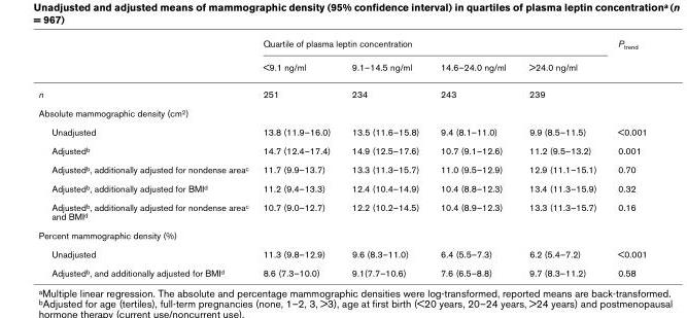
<table><thead><tr><td rowspan="2"></td><td colspan="4">Quartile of plasma leptin concentration</td><td rowspan="2">Ptrend</td></tr><tr><td>&lt;9.1 ng/ml</td><td>9.1–14.5 ng/ml</td><td>14.6–24.0 ng/ml</td><td>&gt;24.0 ng/ml</td></tr></thead><tbody><tr><td>n</td><td>251</td><td>234</td><td>243</td><td>239</td><td></td></tr><tr><td colspan="6">Absolute mammographic density (cm2)</td></tr><tr><td>Unadjusted</td><td>13.8 (11.9–16.0)</td><td>13.5 (11.6–15.8)</td><td>9.4 (8.1–11.0)</td><td>9.9 (8.5–11.5)</td><td>&lt;0.001</td></tr><tr><td>Adjustedb</td><td>14.7 (12.4–17.4)</td><td>14.9 (12.5–17.6)</td><td>10.7 (9.1–12.6)</td><td>11.2 (9.5–13.2)</td><td>0.001</td></tr><tr><td>Adjustedb, additionally adjusted for nondense areac</td><td>11.7 (9.9–13.7)</td><td>13.3 (11.3–15.7)</td><td>11.0 (9.5–12.9)</td><td>12.9 (11.1–15.1)</td><td>0.70</td></tr><tr><td>Adjustedb, additionally adjusted for BMId</td><td>11.2 (9.4–13.3)</td><td>12.4 (10.4–14.9)</td><td>10.4 (8.8–12.3)</td><td>13.4 (11.3–15.9)</td><td>0.32</td></tr><tr><td>Adjustedb, additionally adjusted for nondense areac and BMId</td><td>10.7 (9.0–12.7)</td><td>12.2 (10.2–14.5)</td><td>10.4 (8.9–12.3)</td><td>13.3 (11.3–15.7)</td><td>0.16</td></tr><tr><td colspan="6">Percent mammographic density (%)</td></tr><tr><td>Unadjusted</td><td>11.3 (9.8–12.9)</td><td>9.6 (8.3–11.0)</td><td>6.4 (5.5–7.3)</td><td>6.2 (5.4–7.2)</td><td>&lt;0.001</td></tr><tr><td>Adjustedb, and additionally adjusted for BMId</td><td>8.6 (7.3–10.0)</td><td>9.1(7.7–10.6)</td><td>7.6 (6.5–8.8)</td><td>9.7 (8.3–11.2)</td><td>0.58</td></tr></tbody></table>